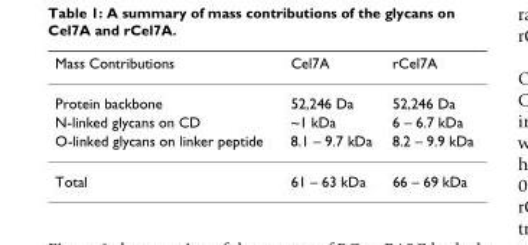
<table><thead><tr><td>Mass Contributions</td><td>Cel7A</td><td>rCel7A</td></tr></thead><tbody><tr><td>Protein backbone</td><td>52,246 Da</td><td>52,246 Da</td></tr><tr><td>N-linked glycans on CD</td><td>~1 kDa</td><td>6 – 6.7 kDa</td></tr><tr><td>O-linked glycans on linker peptide</td><td>8.1 – 9.7 kDa</td><td>8.2 – 9.9 kDa</td></tr><tr><td>Total</td><td>61 – 63 kDa</td><td>66 – 69 kDa</td></tr></tbody></table>